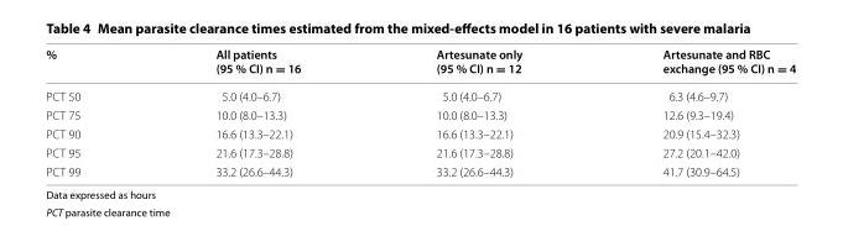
<table><thead><tr><td>%</td><td>All patients (95 % CI) n = 16</td><td>Artesunate only (95 % CI) n = 12</td><td>Artesunate and RBC exchange (95 % CI) n = 4</td></tr></thead><tbody><tr><td>PCT 50</td><td>5.0 (4.0–6.7)</td><td>5.0 (4.0–6.7)</td><td>6.3 (4.6–9.7)</td></tr><tr><td>PCT 75</td><td>10.0 (8.0–13.3)</td><td>10.0 (8.0–13.3)</td><td>12.6 (9.3–19.4)</td></tr><tr><td>PCT 90</td><td>16.6 (13.3–22.1)</td><td>16.6 (13.3–22.1)</td><td>20.9 (15.4–32.3)</td></tr><tr><td>PCT 95</td><td>21.6 (17.3–28.8)</td><td>21.6 (17.3–28.8)</td><td>27.2 (20.1–42.0)</td></tr><tr><td>PCT 99</td><td>33.2 (26.6–44.3)</td><td>33.2 (26.6–44.3)</td><td>41.7 (30.9–64.5)</td></tr></tbody></table>